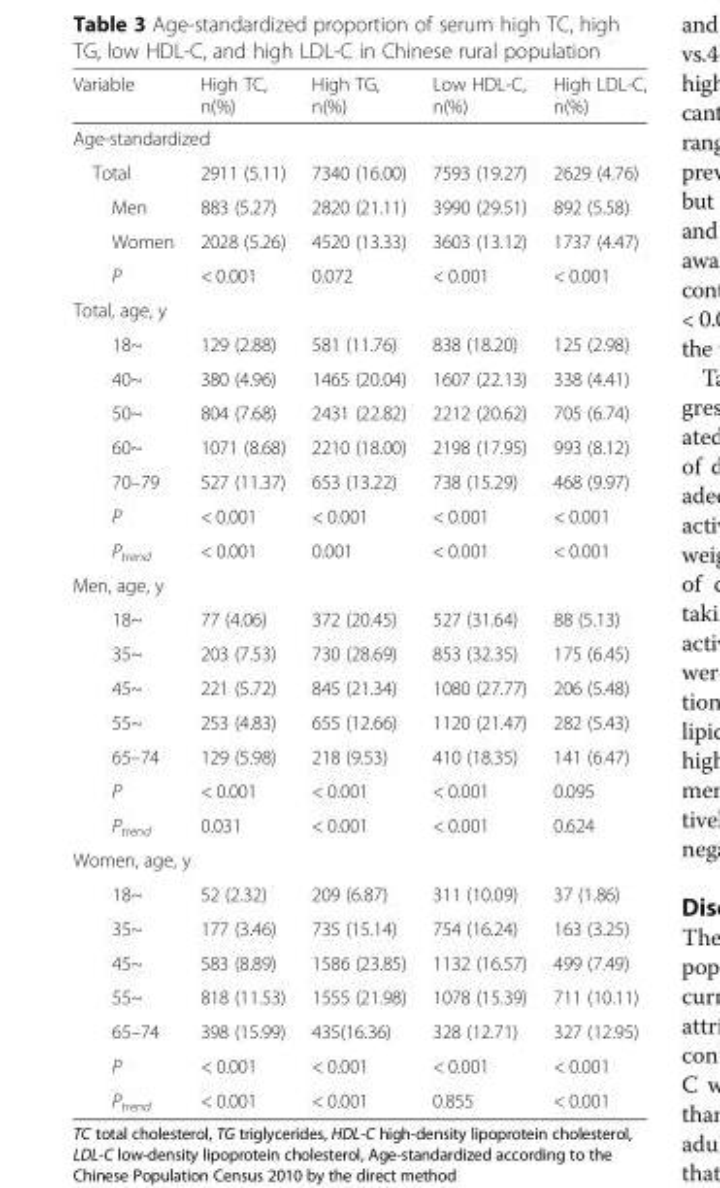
<table><thead><tr><td>Variable</td><td>High TC, n(%)</td><td>High TG, n(%)</td><td>Low HDL-C, n(%)</td><td>High LDL-C, n(%)</td></tr></thead><tbody><tr><td colspan="5">Age-standardized</td></tr><tr><td>Total</td><td>2911 (5.11)</td><td>7340 (16.00)</td><td>7593 (19.27)</td><td>2629 (4.76)</td></tr><tr><td>Men</td><td>883 (5.27)</td><td>2820 (21.11)</td><td>3990 (29.51)</td><td>892 (5.58)</td></tr><tr><td>Women</td><td>2028 (5.26)</td><td>4520 (13.33)</td><td>3603 (13.12)</td><td>1737 (4.47)</td></tr><tr><td>P</td><td>&lt; 0.001</td><td>0.072</td><td>&lt; 0.001</td><td>&lt; 0.001</td></tr><tr><td colspan="5">Total, age, y</td></tr><tr><td>18~</td><td>129 (2.88)</td><td>581 (11.76)</td><td>838 (18.20)</td><td>125 (2.98)</td></tr><tr><td>40~</td><td>380 (4.96)</td><td>1465 (20.04)</td><td>1607 (22.13)</td><td>338 (4.41)</td></tr><tr><td>50~</td><td>804 (7.68)</td><td>2431 (22.82)</td><td>2212 (20.62)</td><td>705 (6.74)</td></tr><tr><td>60~</td><td>1071 (8.68)</td><td>2210 (18.00)</td><td>2198 (17.95)</td><td>993 (8.12)</td></tr><tr><td>70–79</td><td>527 (11.37)</td><td>653 (13.22)</td><td>738 (15.29)</td><td>468 (9.97)</td></tr><tr><td>P</td><td>&lt; 0.001</td><td>&lt; 0.001</td><td>&lt; 0.001</td><td>&lt; 0.001</td></tr><tr><td>P<sub>trend</sub></td><td>&lt; 0.001</td><td>0.001</td><td>&lt; 0.001</td><td>&lt; 0.001</td></tr><tr><td colspan="5">Men, age, y</td></tr><tr><td>18~</td><td>77 (4.06)</td><td>372 (20.45)</td><td>527 (31.64)</td><td>88 (5.13)</td></tr><tr><td>35~</td><td>203 (7.53)</td><td>730 (28.69)</td><td>853 (32.35)</td><td>175 (6.45)</td></tr><tr><td>45~</td><td>221 (5.72)</td><td>845 (21.34)</td><td>1080 (27.77)</td><td>206 (5.48)</td></tr><tr><td>55~</td><td>253 (4.83)</td><td>655 (12.66)</td><td>1120 (21.47)</td><td>282 (5.43)</td></tr><tr><td>65–74</td><td>129 (5.98)</td><td>218 (9.53)</td><td>410 (18.35)</td><td>141 (6.47)</td></tr><tr><td>P</td><td>&lt; 0.001</td><td>&lt; 0.001</td><td>&lt; 0.001</td><td>0.095</td></tr><tr><td>P<sub>trend</sub></td><td>0.031</td><td>&lt; 0.001</td><td>&lt; 0.001</td><td>0.624</td></tr><tr><td colspan="5">Women, age, y</td></tr><tr><td>18~</td><td>52 (2.32)</td><td>209 (6.87)</td><td>311 (10.09)</td><td>37 (1.86)</td></tr><tr><td>35~</td><td>177 (3.46)</td><td>735 (15.14)</td><td>754 (16.24)</td><td>163 (3.25)</td></tr><tr><td>45~</td><td>583 (8.89)</td><td>1586 (23.85)</td><td>1132 (16.57)</td><td>499 (7.49)</td></tr><tr><td>55~</td><td>818 (11.53)</td><td>1555 (21.98)</td><td>1078 (15.39)</td><td>711 (10.11)</td></tr><tr><td>65–74</td><td>398 (15.99)</td><td>435(16.36)</td><td>328 (12.71)</td><td>327 (12.95)</td></tr><tr><td>P</td><td>&lt; 0.001</td><td>&lt; 0.001</td><td>&lt; 0.001</td><td>&lt; 0.001</td></tr><tr><td>P<sub>trend</sub></td><td>&lt; 0.001</td><td>&lt; 0.001</td><td>0.855</td><td>&lt; 0.001</td></tr></tbody></table>